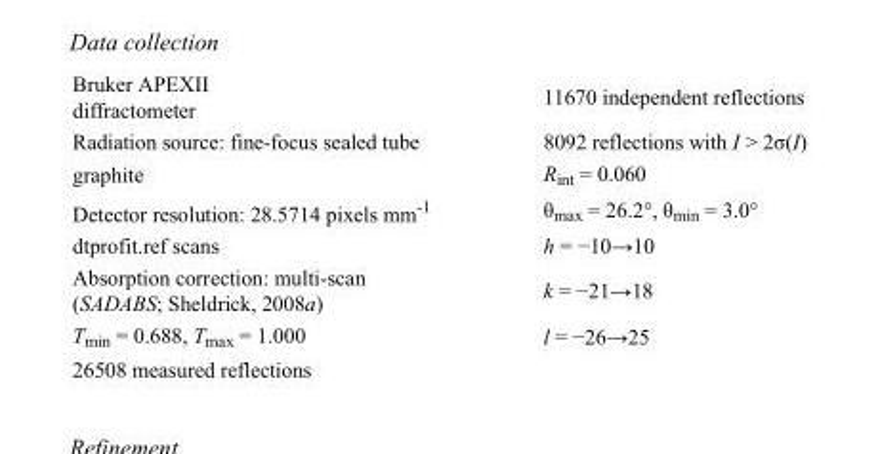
<table><tbody><tr><td>Bruker APEXII diffractometer</td><td>11670 independent reflections</td></tr><tr><td>Radiation source: fine-focus sealed tube</td><td>8092 reflections with I &gt; 2σ(I)</td></tr><tr><td>graphite</td><td>R<sub>int</sub> = 0.060</td></tr><tr><td>Detector resolution: 28.5714 pixels mm<sup>-1</sup></td><td>θ<sub>max</sub> = 26.2°, θ<sub>min</sub> = 3.0°</td></tr><tr><td>dtprofit.ref scans</td><td>h = −10→10</td></tr><tr><td>Absorption correction: multi-scan (SADABS; Sheldrick, 2008a)</td><td>k = −21→18</td></tr><tr><td>T<sub>min</sub> = 0.688, T<sub>max</sub> = 1.000</td><td>l = −26→25</td></tr><tr><td>26508 measured reflections</td><td></td></tr></tbody></table>